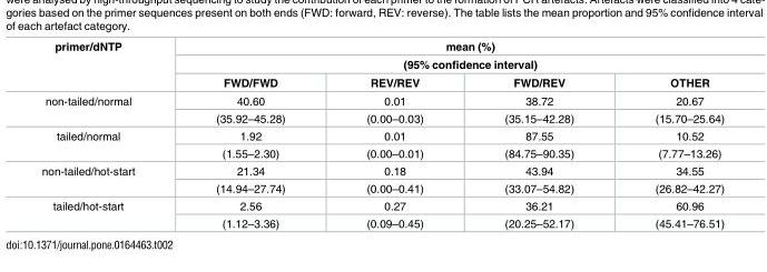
<table><thead><tr><td rowspan="3">primer/dNTP</td><td rowspan="2" colspan="4">mean (%) (95% confidence interval)</td></tr><tr></tr><tr><td>FWD/FWD</td><td>REV/REV</td><td>FWD/REV</td><td>OTHER</td></tr></thead><tbody><tr><td rowspan="2">non-tailed/normal</td><td>40.60</td><td>0.01</td><td>38.72</td><td>20.67</td></tr><tr><td>(35.92–45.28)</td><td>(0.00–0.03)</td><td>(35.15–42.28)</td><td>(15.70–25.64)</td></tr><tr><td rowspan="2">tailed/normal</td><td>1.92</td><td>0.01</td><td>87.55</td><td>10.52</td></tr><tr><td>(1.55–2.30)</td><td>(0.00–0.01)</td><td>(84.75–90.35)</td><td>(7.77–13.26)</td></tr><tr><td rowspan="2">non-tailed/hot-start</td><td>21.34</td><td>0.18</td><td>43.94</td><td>34.55</td></tr><tr><td>(14.94–27.74)</td><td>(0.00–0.41)</td><td>(33.07–54.82)</td><td>(26.82–42.27)</td></tr><tr><td rowspan="2">tailed/hot-start</td><td>2.56</td><td>0.27</td><td>36.21</td><td>60.96</td></tr><tr><td>(1.12–3.36)</td><td>(0.09–0.45)</td><td>(20.25–52.17)</td><td>(45.41–76.51)</td></tr></tbody></table>